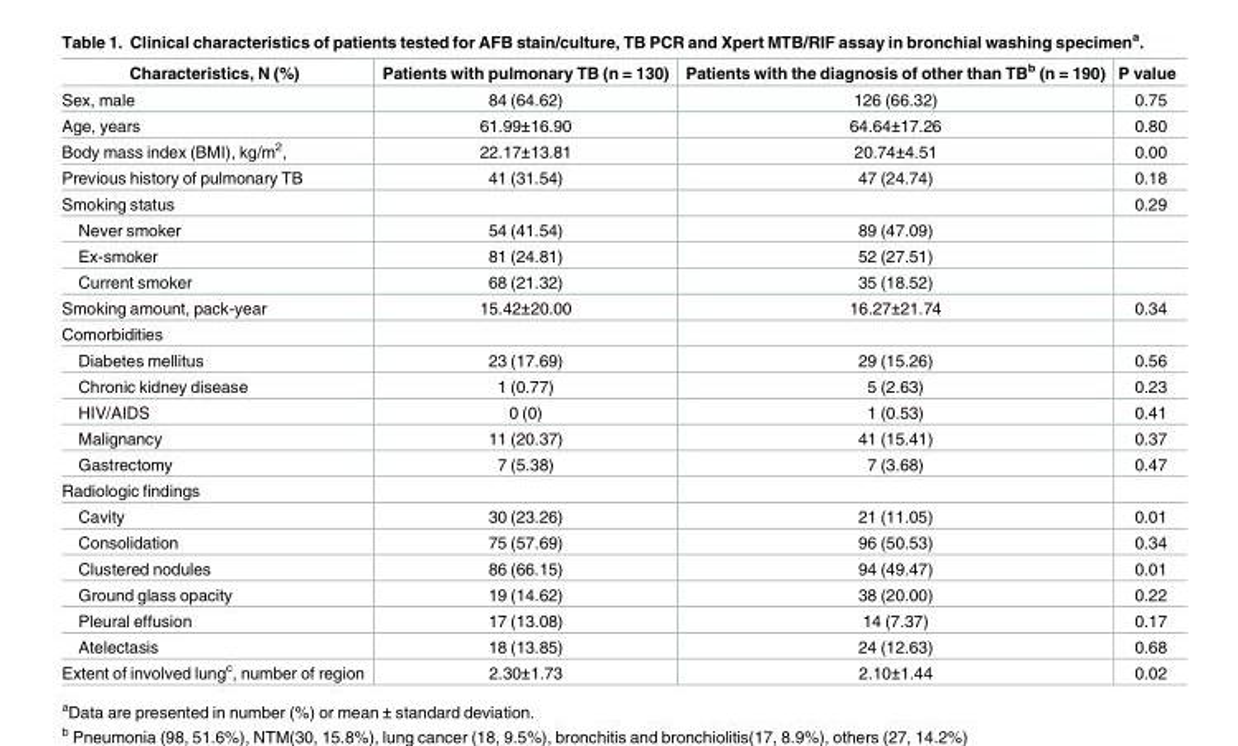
<table><thead><tr><td>Characteristics, N (%)</td><td>Patients with pulmonary TB (n = 130)</td><td>Patients with the diagnosis of other than TB<sup>b</sup> (n = 190)</td><td>P value</td></tr></thead><tbody><tr><td>Sex, male</td><td>84 (64.62)</td><td>126 (66.32)</td><td>0.75</td></tr><tr><td>Age, years</td><td>61.99±16.90</td><td>64.64±17.26</td><td>0.80</td></tr><tr><td>Body mass index (BMI), kg/m<sup>2</sup>,</td><td>22.17±13.81</td><td>20.74±4.51</td><td>0.00</td></tr><tr><td>Previous history of pulmonary TB</td><td>41 (31.54)</td><td>47 (24.74)</td><td>0.18</td></tr><tr><td>Smoking status</td><td></td><td></td><td>0.29</td></tr><tr><td>Never smoker</td><td>54 (41.54)</td><td>89 (47.09)</td><td></td></tr><tr><td>Ex-smoker</td><td>81 (24.81)</td><td>52 (27.51)</td><td></td></tr><tr><td>Current smoker</td><td>68 (21.32)</td><td>35 (18.52)</td><td></td></tr><tr><td>Smoking amount, pack-year</td><td>15.42±20.00</td><td>16.27±21.74</td><td>0.34</td></tr><tr><td colspan="4">Comorbidities</td></tr><tr><td>Diabetes mellitus</td><td>23 (17.69)</td><td>29 (15.26)</td><td>0.56</td></tr><tr><td>Chronic kidney disease</td><td>1 (0.77)</td><td>5 (2.63)</td><td>0.23</td></tr><tr><td>HIV/AIDS</td><td>0 (0)</td><td>1 (0.53)</td><td>0.41</td></tr><tr><td>Malignancy</td><td>11 (20.37)</td><td>41 (15.41)</td><td>0.37</td></tr><tr><td>Gastrectomy</td><td>7 (5.38)</td><td>7 (3.68)</td><td>0.47</td></tr><tr><td colspan="4">Radiologic findings</td></tr><tr><td>Cavity</td><td>30 (23.26)</td><td>21 (11.05)</td><td>0.01</td></tr><tr><td>Consolidation</td><td>75 (57.69)</td><td>96 (50.53)</td><td>0.34</td></tr><tr><td>Clustered nodules</td><td>86 (66.15)</td><td>94 (49.47)</td><td>0.01</td></tr><tr><td>Ground glass opacity</td><td>19 (14.62)</td><td>38 (20.00)</td><td>0.22</td></tr><tr><td>Pleural effusion</td><td>17 (13.08)</td><td>14 (7.37)</td><td>0.17</td></tr><tr><td>Atelectasis</td><td>18 (13.85)</td><td>24 (12.63)</td><td>0.68</td></tr><tr><td>Extent of involved lung<sup>c</sup>, number of region</td><td>2.30±1.73</td><td>2.10±1.44</td><td>0.02</td></tr></tbody></table>